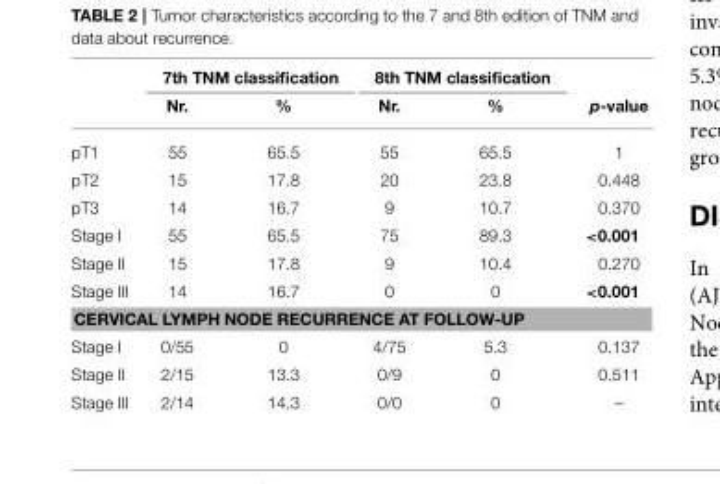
<table><thead><tr><td rowspan="2"></td><td colspan="2">7th TNM classification</td><td colspan="2">8th TNM classification</td><td rowspan="2">p-value</td></tr><tr><td>Nr.</td><td>%</td><td>Nr.</td><td>%</td></tr></thead><tbody><tr><td>pT1</td><td>55</td><td>65.5</td><td>55</td><td>65.5</td><td>1</td></tr><tr><td>pT2</td><td>15</td><td>17.8</td><td>20</td><td>23.8</td><td>0.448</td></tr><tr><td>pT3</td><td>14</td><td>16.7</td><td>9</td><td>10.7</td><td>0.370</td></tr><tr><td>Stage I</td><td>55</td><td>65.5</td><td>75</td><td>89.3</td><td>&lt;0.001</td></tr><tr><td>Stage II</td><td>15</td><td>17.8</td><td>9</td><td>10.4</td><td>0.270</td></tr><tr><td>Stage III</td><td>14</td><td>16.7</td><td>0</td><td>0</td><td>&lt;0.001</td></tr><tr><td colspan="6">CERVICAL LYMPH NODE RECURRENCE AT FOLLOW-UP</td></tr><tr><td>Stage I</td><td>0/55</td><td>0</td><td>4/75</td><td>5.3</td><td>0.137</td></tr><tr><td>Stage II</td><td>2/15</td><td>13.3</td><td>0/9</td><td>0</td><td>0.511</td></tr><tr><td>Stage III</td><td>2/14</td><td>14.3</td><td>0/0</td><td>0</td><td>–</td></tr></tbody></table>